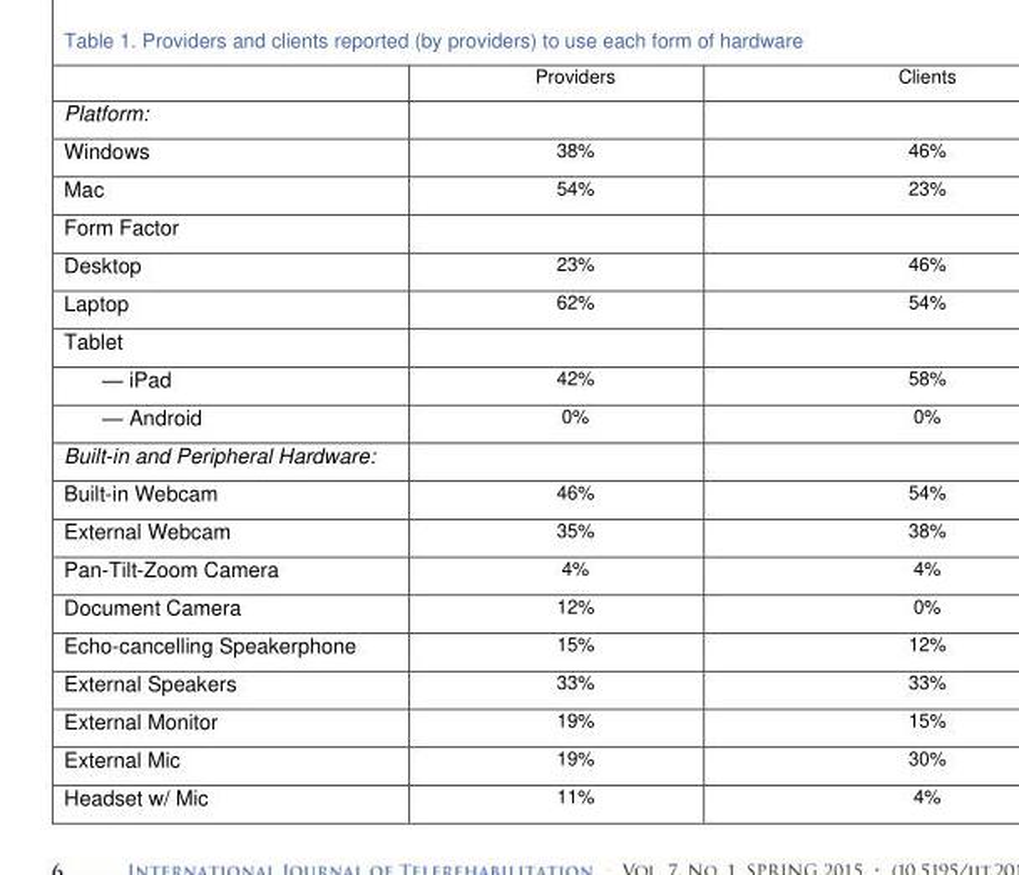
<table><thead><tr><td></td><td>Providers</td><td>Clients</td></tr></thead><tbody><tr><td colspan="3">Platform:</td></tr><tr><td>Windows</td><td>38%</td><td>46%</td></tr><tr><td>Mac</td><td>54%</td><td>23%</td></tr><tr><td colspan="3">Form Factor</td></tr><tr><td>Desktop</td><td>23%</td><td>46%</td></tr><tr><td>Laptop</td><td>62%</td><td>54%</td></tr><tr><td colspan="3">Tablet</td></tr><tr><td>— iPad</td><td>42%</td><td>58%</td></tr><tr><td>— Android</td><td>0%</td><td>0%</td></tr><tr><td colspan="3">Built-in and Peripheral Hardware:</td></tr><tr><td>Built-in Webcam</td><td>46%</td><td>54%</td></tr><tr><td>External Webcam</td><td>35%</td><td>38%</td></tr><tr><td>Pan-Tilt-Zoom Camera</td><td>4%</td><td>4%</td></tr><tr><td>Document Camera</td><td>12%</td><td>0%</td></tr><tr><td>Echo-cancelling Speakerphone</td><td>15%</td><td>12%</td></tr><tr><td>External Speakers</td><td>33%</td><td>33%</td></tr><tr><td>External Monitor</td><td>19%</td><td>15%</td></tr><tr><td>External Mic</td><td>19%</td><td>30%</td></tr><tr><td>Headset w/ Mic</td><td>11%</td><td>4%</td></tr></tbody></table>